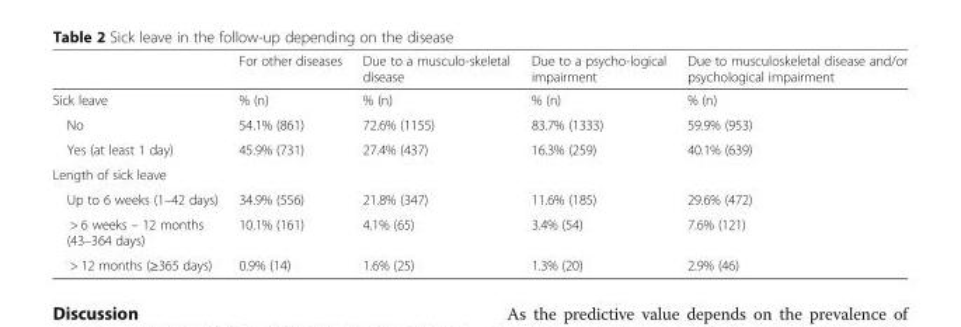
<table><thead><tr><td></td><td>For other diseases</td><td>Due to a musculo-skeletal disease</td><td>Due to a psycho-logical impairment</td><td>Due to musculoskeletal disease and/or psychological impairment</td></tr></thead><tbody><tr><td>Sick leave</td><td>% (n)</td><td>% (n)</td><td>% (n)</td><td>% (n)</td></tr><tr><td>No</td><td>54.1% (861)</td><td>72.6% (1155)</td><td>83.7% (1333)</td><td>59.9% (953)</td></tr><tr><td>Yes (at least 1 day)</td><td>45.9% (731)</td><td>27.4% (437)</td><td>16.3% (259)</td><td>40.1% (639)</td></tr><tr><td colspan="5">Length of sick leave</td></tr><tr><td>Up to 6 weeks (1–42 days)</td><td>34.9% (556)</td><td>21.8% (347)</td><td>11.6% (185)</td><td>29.6% (472)</td></tr><tr><td>&gt; 6 weeks – 12 months (43–364 days)</td><td>10.1% (161)</td><td>4.1% (65)</td><td>3.4% (54)</td><td>7.6% (121)</td></tr><tr><td>&gt; 12 months (≥365 days)</td><td>0.9% (14)</td><td>1.6% (25)</td><td>1.3% (20)</td><td>2.9% (46)</td></tr></tbody></table>